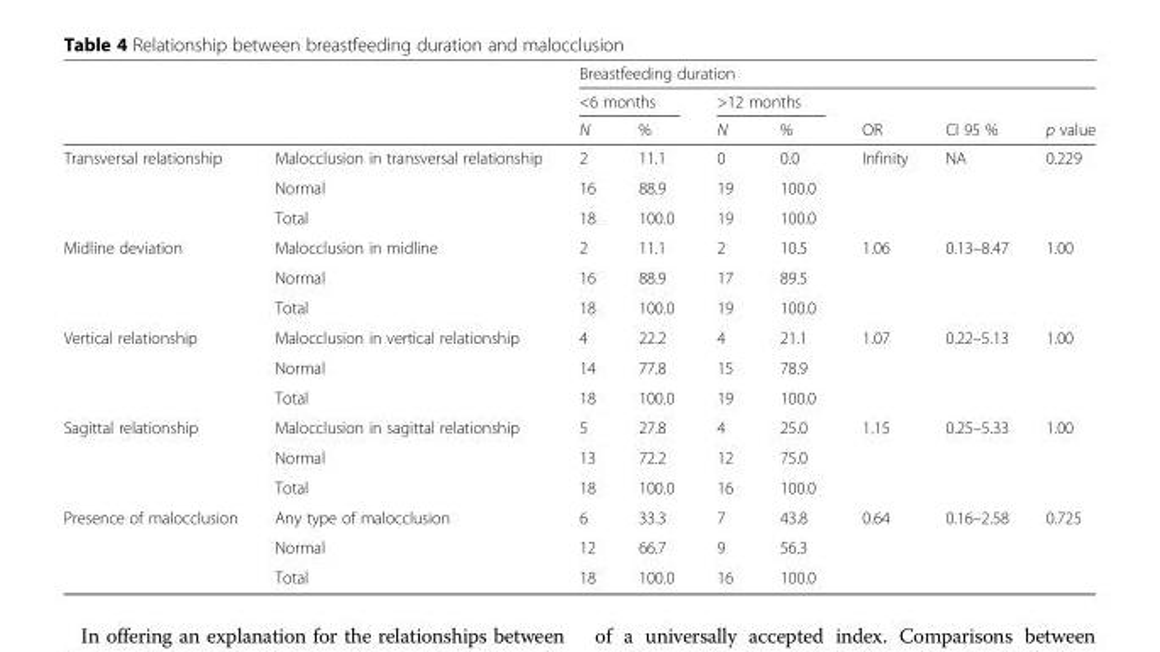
<table><thead><tr><td rowspan="3"></td><td rowspan="3"></td><td colspan="7">Breastfeeding duration</td></tr><tr><td colspan="2">&lt;6 months</td><td colspan="2">&gt;12 months</td><td rowspan="2">OR</td><td rowspan="2">CI 95 %</td><td rowspan="2">p value</td></tr><tr><td>N</td><td>%</td><td>N</td><td>%</td></tr></thead><tbody><tr><td rowspan="3">Transversal relationship</td><td>Malocclusion in transversal relationship</td><td>2</td><td>11.1</td><td>0</td><td>0.0</td><td>Infinity</td><td>NA</td><td>0.229</td></tr><tr><td>Normal</td><td>16</td><td>88.9</td><td>19</td><td>100.0</td><td></td><td></td><td></td></tr><tr><td>Total</td><td>18</td><td>100.0</td><td>19</td><td>100.0</td><td></td><td></td><td></td></tr><tr><td rowspan="3">Midline deviation</td><td>Malocclusion in midline</td><td>2</td><td>11.1</td><td>2</td><td>10.5</td><td>1.06</td><td>0.13–8.47</td><td>1.00</td></tr><tr><td>Normal</td><td>16</td><td>88.9</td><td>17</td><td>89.5</td><td></td><td></td><td></td></tr><tr><td>Total</td><td>18</td><td>100.0</td><td>19</td><td>100.0</td><td></td><td></td><td></td></tr><tr><td rowspan="3">Vertical relationship</td><td>Malocclusion in vertical relationship</td><td>4</td><td>22.2</td><td>4</td><td>21.1</td><td>1.07</td><td>0.22–5.13</td><td>1.00</td></tr><tr><td>Normal</td><td>14</td><td>77.8</td><td>15</td><td>78.9</td><td></td><td></td><td></td></tr><tr><td>Total</td><td>18</td><td>100.0</td><td>19</td><td>100.0</td><td></td><td></td><td></td></tr><tr><td rowspan="3">Sagittal relationship</td><td>Malocclusion in sagittal relationship</td><td>5</td><td>27.8</td><td>4</td><td>25.0</td><td>1.15</td><td>0.25–5.33</td><td>1.00</td></tr><tr><td>Normal</td><td>13</td><td>72.2</td><td>12</td><td>75.0</td><td></td><td></td><td></td></tr><tr><td>Total</td><td>18</td><td>100.0</td><td>16</td><td>100.0</td><td></td><td></td><td></td></tr><tr><td rowspan="3">Presence of malocclusion</td><td>Any type of malocclusion</td><td>6</td><td>33.3</td><td>7</td><td>43.8</td><td>0.64</td><td>0.16–2.58</td><td>0.725</td></tr><tr><td>Normal</td><td>12</td><td>66.7</td><td>9</td><td>56.3</td><td></td><td></td><td></td></tr><tr><td>Total</td><td>18</td><td>100.0</td><td>16</td><td>100.0</td><td></td><td></td><td></td></tr></tbody></table>